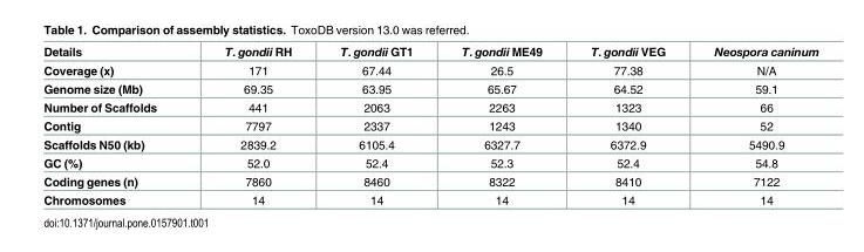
<table><thead><tr><td>Details</td><td>T. gondii RH</td><td>T. gondii GT1</td><td>T. gondii ME49</td><td>T. gondii VEG</td><td>Neospora caninum</td></tr></thead><tbody><tr><td>Coverage (x)</td><td>171</td><td>67.44</td><td>26.5</td><td>77.38</td><td>N/A</td></tr><tr><td>Genome size (Mb)</td><td>69.35</td><td>63.95</td><td>65.67</td><td>64.52</td><td>59.1</td></tr><tr><td>Number of Scaffolds</td><td>441</td><td>2063</td><td>2263</td><td>1323</td><td>66</td></tr><tr><td>Contig</td><td>7797</td><td>2337</td><td>1243</td><td>1340</td><td>52</td></tr><tr><td>Scaffolds N50 (kb)</td><td>2839.2</td><td>6105.4</td><td>6327.7</td><td>6372.9</td><td>5490.9</td></tr><tr><td>GC (%)</td><td>52.0</td><td>52.4</td><td>52.3</td><td>52.4</td><td>54.8</td></tr><tr><td>Coding genes (n)</td><td>7860</td><td>8460</td><td>8322</td><td>8410</td><td>7122</td></tr><tr><td>Chromosomes</td><td>14</td><td>14</td><td>14</td><td>14</td><td>14</td></tr></tbody></table>